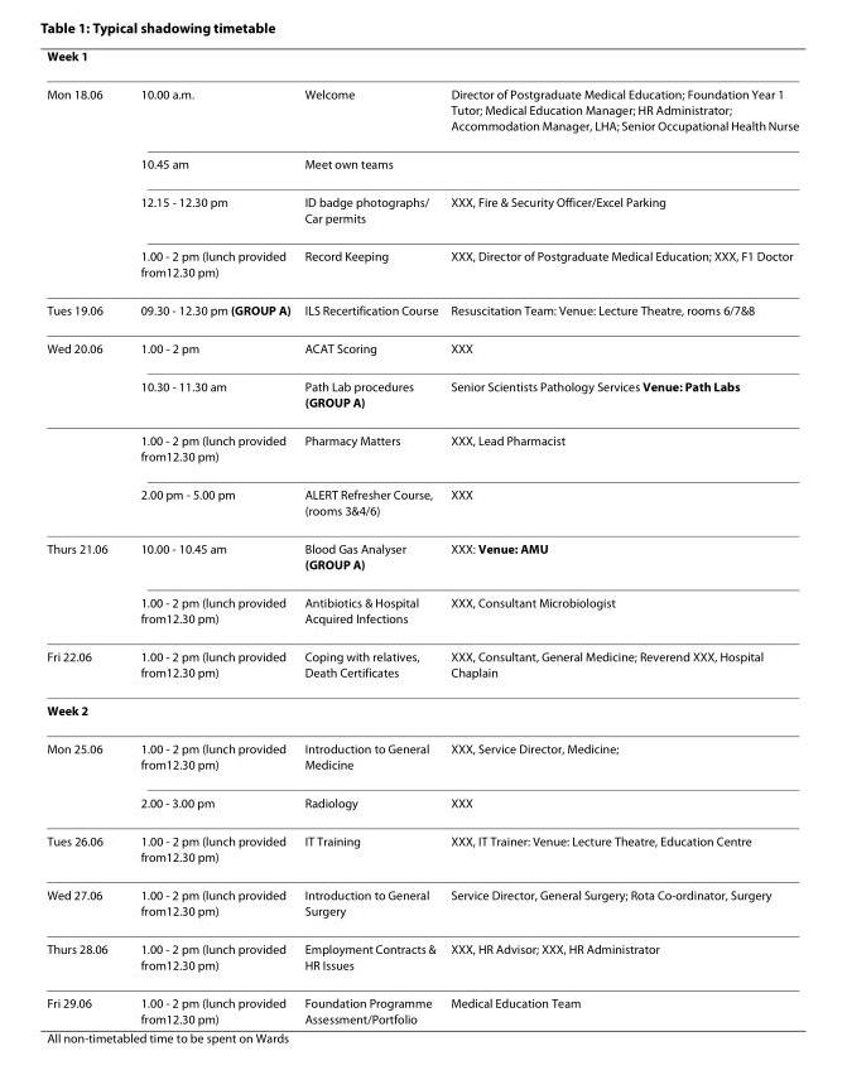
<table><thead><tr><td>Week 1</td><td></td><td></td><td></td></tr></thead><tbody><tr><td rowspan="4">Mon 18.06</td><td>10.00 a.m.</td><td>Welcome</td><td>Director of Postgraduate Medical Education; Foundation Year 1 Tutor; Medical Education Manager; HR Administrator; Accommodation Manager, LHA; Senior Occupational Health Nurse</td></tr><tr><td>10.45 am</td><td>Meet own teams</td><td></td></tr><tr><td>12.15 - 12.30 pm</td><td>ID badge photographs/ Car permits</td><td>XXX, Fire &amp; Security Officer/Excel Parking</td></tr><tr><td>1.00 - 2 pm (lunch provided from12.30 pm)</td><td>Record Keeping</td><td>XXX, Director of Postgraduate Medical Education; XXX, F1 Doctor</td></tr><tr><td>Tues 19.06</td><td>09.30 - 12.30 pm (GROUP A)</td><td>ILS Recertification Course</td><td>Resuscitation Team: Venue: Lecture Theatre, rooms 6/7&amp;8</td></tr><tr><td rowspan="4">Wed 20.06</td><td>1.00 - 2 pm</td><td>ACAT Scoring</td><td>XXX</td></tr><tr><td>10.30 - 11.30 am</td><td>Path Lab procedures (GROUP A)</td><td>Senior Scientists Pathology Services Venue: Path Labs</td></tr><tr><td>1.00 - 2 pm (lunch provided from12.30 pm)</td><td>Pharmacy Matters</td><td>XXX, Lead Pharmacist</td></tr><tr><td>2.00 pm - 5.00 pm</td><td>ALERT Refresher Course, (rooms 3&amp;4/6)</td><td>XXX</td></tr><tr><td rowspan="2">Thurs 21.06</td><td>10.00 - 10.45 am</td><td>Blood Gas Analyser (GROUP A)</td><td>XXX: Venue: AMU</td></tr><tr><td>1.00 - 2 pm (lunch provided from12.30 pm)</td><td>Antibiotics &amp; Hospital Acquired Infections</td><td>XXX, Consultant Microbiologist</td></tr><tr><td>Fri 22.06</td><td>1.00 - 2 pm (lunch provided from12.30 pm)</td><td>Coping with relatives, Death Certificates</td><td>XXX, Consultant, General Medicine; Reverend XXX, Hospital Chaplain</td></tr><tr><td colspan="4">Week 2</td></tr><tr><td rowspan="2">Mon 25.06</td><td>1.00 - 2 pm (lunch provided from12.30 pm)</td><td>Introduction to General Medicine</td><td>XXX, Service Director, Medicine;</td></tr><tr><td>2.00 - 3.00 pm</td><td>Radiology</td><td>XXX</td></tr><tr><td>Tues 26.06</td><td>1.00 - 2 pm (lunch provided from12.30 pm)</td><td>IT Training</td><td>XXX, IT Trainer: Venue: Lecture Theatre, Education Centre</td></tr><tr><td>Wed 27.06</td><td>1.00 - 2 pm (lunch provided from12.30 pm)</td><td>Introduction to General Surgery</td><td>Service Director, General Surgery; Rota Co-ordinator, Surgery</td></tr><tr><td>Thurs 28.06</td><td>1.00 - 2 pm (lunch provided from12.30 pm)</td><td>Employment Contracts &amp; HR Issues</td><td>XXX, HR Advisor; XXX, HR Administrator</td></tr><tr><td>Fri 29.06</td><td>1.00 - 2 pm (lunch provided from12.30 pm)</td><td>Foundation Programme Assessment/Portfolio</td><td>Medical Education Team</td></tr></tbody></table>